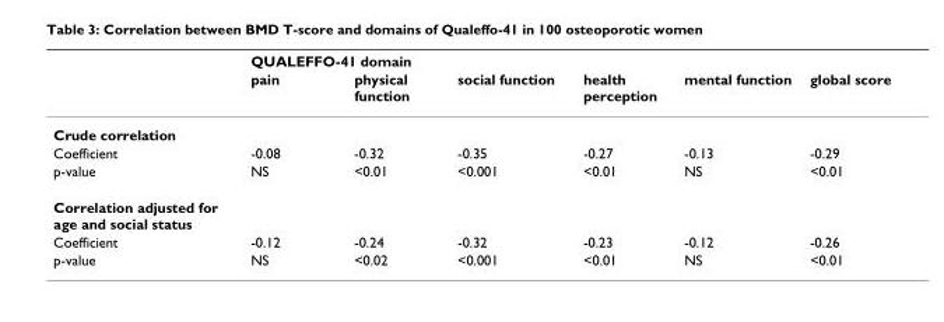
<table><thead><tr><td rowspan="2"></td><td colspan="3">QUALEFFO-41 domain</td><td rowspan="2">health perception</td><td rowspan="2">mental function</td><td rowspan="2">global score</td></tr><tr><td>pain</td><td>physical function</td><td>social function</td></tr></thead><tbody><tr><td colspan="7">Crude correlation</td></tr><tr><td>Coefficient</td><td>-0.08</td><td>-0.32</td><td>-0.35</td><td>-0.27</td><td>-0.13</td><td>-0.29</td></tr><tr><td>p-value</td><td>NS</td><td>&lt;0.01</td><td>&lt;0.001</td><td>&lt;0.01</td><td>NS</td><td>&lt;0.01</td></tr><tr><td colspan="7">Correlation adjusted for age and social status</td></tr><tr><td>Coefficient</td><td>-0.12</td><td>-0.24</td><td>-0.32</td><td>-0.23</td><td>-0.12</td><td>-0.26</td></tr><tr><td>p-value</td><td>NS</td><td>&lt;0.02</td><td>&lt;0.001</td><td>&lt;0.01</td><td>NS</td><td>&lt;0.01</td></tr></tbody></table>